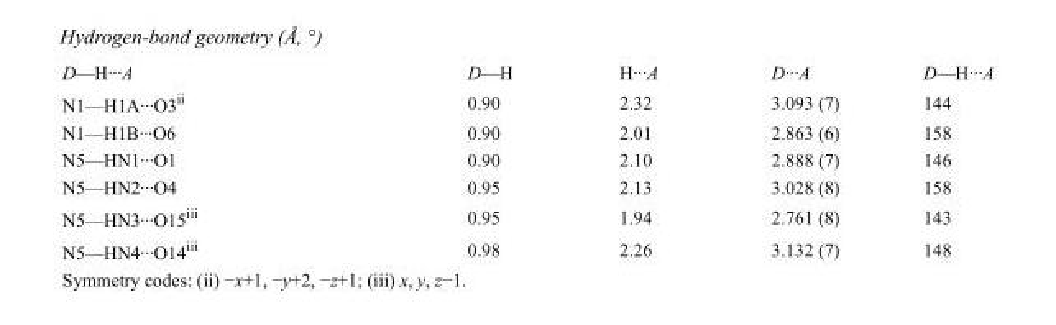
<table><tbody><tr><td>D—H···A</td><td>D—H</td><td>H···A</td><td>D···A</td><td>D—H···A</td></tr><tr><td>N1—H1A···O3<sup>ii</sup></td><td>0.90</td><td>2.32</td><td>3.093 (7)</td><td>144</td></tr><tr><td>N1—H1B···O6</td><td>0.90</td><td>2.01</td><td>2.863 (6)</td><td>158</td></tr><tr><td>N5—HN1···O1</td><td>0.90</td><td>2.10</td><td>2.888 (7)</td><td>146</td></tr><tr><td>N5—HN2···O4</td><td>0.95</td><td>2.13</td><td>3.028 (8)</td><td>158</td></tr><tr><td>N5—HN3···O15<sup>iii</sup></td><td>0.95</td><td>1.94</td><td>2.761 (8)</td><td>143</td></tr><tr><td>N5—HN4···O14<sup>iii</sup></td><td>0.98</td><td>2.26</td><td>3.132 (7)</td><td>148</td></tr></tbody></table>